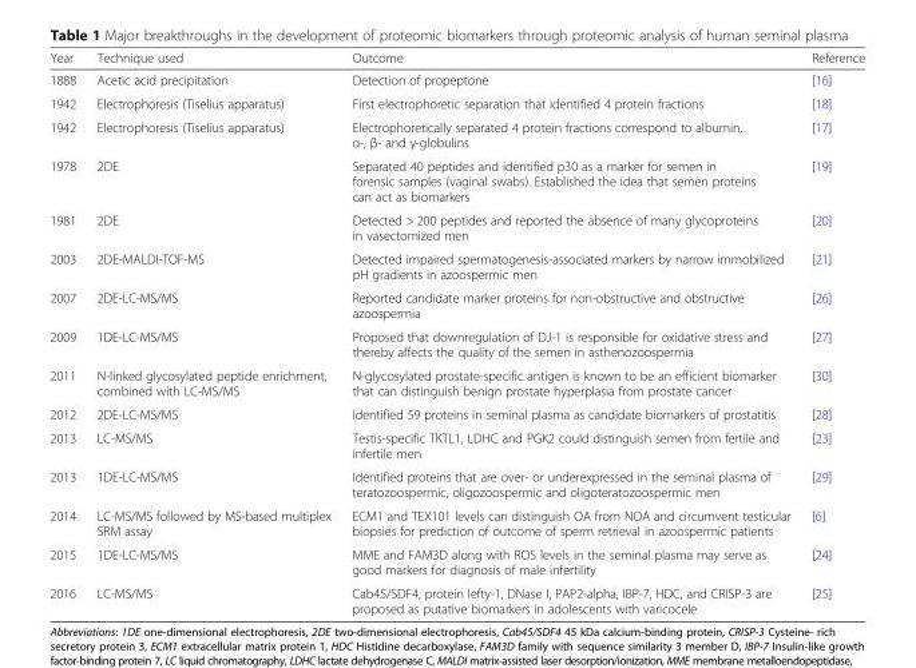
<table><thead><tr><td>Year</td><td>Technique used</td><td>Outcome</td><td>Reference</td></tr></thead><tbody><tr><td>1888</td><td>Acetic acid precipitation</td><td>Detection of propeptone</td><td>[16]</td></tr><tr><td>1942</td><td>Electrophoresis (Tiselius apparatus)</td><td>First electrophoretic separation that identified 4 protein fractions</td><td>[18]</td></tr><tr><td>1942</td><td>Electrophoresis (Tiselius apparatus)</td><td>Electrophoretically separated 4 protein fractions correspond to albumin, α-, β- and γ-globulins</td><td>[17]</td></tr><tr><td>1978</td><td>2DE</td><td>Separated 40 peptides and identified p30 as a marker for semen in forensic samples (vaginal swabs). Established the idea that semen proteins can act as biomarkers</td><td>[19]</td></tr><tr><td>1981</td><td>2DE</td><td>Detected &gt; 200 peptides and reported the absence of many glycoproteins in vasectomized men</td><td>[20]</td></tr><tr><td>2003</td><td>2DE-MALDI-TOF-MS</td><td>Detected impaired spermatogenesis-associated markers by narrow immobilized pH gradients in azoospermic men</td><td>[21]</td></tr><tr><td>2007</td><td>2DE-LC-MS/MS</td><td>Reported candidate marker proteins for non-obstructive and obstructive azoospermia</td><td>[26]</td></tr><tr><td>2009</td><td>1DE-LC-MS/MS</td><td>Proposed that downregulation of DJ-1 is responsible for oxidative stress and thereby affects the quality of the semen in asthenozoospermia</td><td>[27]</td></tr><tr><td>2011</td><td>N-linked glycosylated peptide enrichment, combined with LC-MS/MS</td><td>N-glycosylated prostate-specific antigen is known to be an efficient biomarker that can distinguish benign prostate hyperplasia from prostate cancer</td><td>[30]</td></tr><tr><td>2012</td><td>2DE-LC-MS/MS</td><td>Identified 59 proteins in seminal plasma as candidate biomarkers of prostatitis</td><td>[28]</td></tr><tr><td>2013</td><td>LC-MS/MS</td><td>Testis-specific TKTL1, LDHC and PGK2 could distinguish semen from fertile and infertile men</td><td>[23]</td></tr><tr><td>2013</td><td>1DE-LC-MS/MS</td><td>Identified proteins that are over- or underexpressed in the seminal plasma of teratozoospermic, oligozoospermic and oligoteratozoospermic men</td><td>[29]</td></tr><tr><td>2014</td><td>LC-MS/MS followed by MS-based multiplex SRM assay</td><td>ECM1 and TEX101 levels can distinguish OA from NOA and circumvent testicular biopsies for prediction of outcome of sperm retrieval in azoospermic patients</td><td>[6]</td></tr><tr><td>2015</td><td>1DE-LC-MS/MS</td><td>MME and FAM3D along with ROS levels in the seminal plasma may serve as good markers for diagnosis of male infertility</td><td>[24]</td></tr><tr><td>2016</td><td>LC-MS/MS</td><td>Cab45/SDF4, protein lefty-1, DNase I, PAP2-alpha, IBP-7, HDC, and CRISP-3 are proposed as putative biomarkers in adolescents with varicocele</td><td>[25]</td></tr></tbody></table>